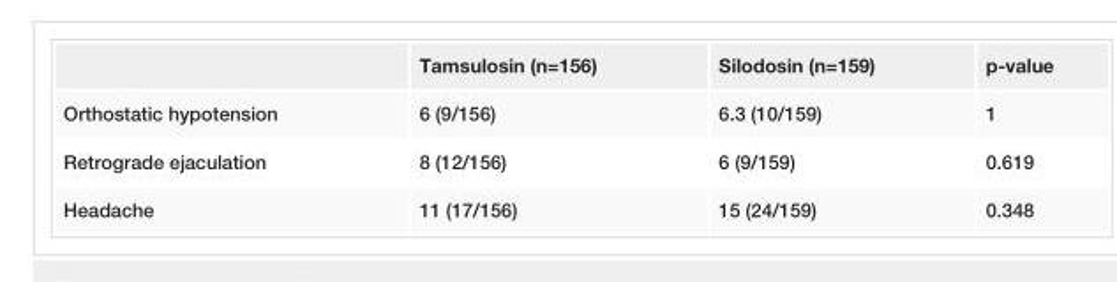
<table><thead><tr><td></td><td>Tamsulosin (n=156)</td><td>Silodosin (n=159)</td><td>p-value</td></tr></thead><tbody><tr><td>Orthostatic hypotension</td><td>6 (9/156)</td><td>6.3 (10/159)</td><td>1</td></tr><tr><td>Retrograde ejaculation</td><td>8 (12/156)</td><td>6 (9/159)</td><td>0.619</td></tr><tr><td>Headache</td><td>11 (17/156)</td><td>15 (24/159)</td><td>0.348</td></tr></tbody></table>